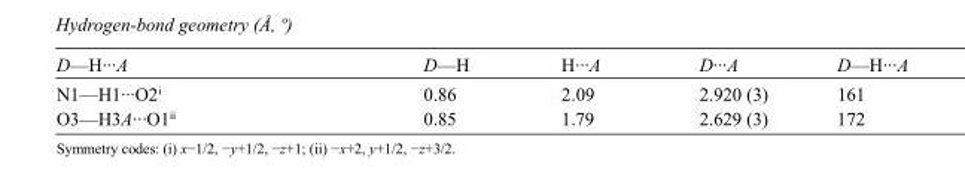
<table><tbody><tr><td>D—H···A</td><td>D—H</td><td>H···A</td><td>D···A</td><td>D—H···A</td></tr><tr><td>N1—H1···O2<sup>i</sup></td><td>0.86</td><td>2.09</td><td>2.920 (3)</td><td>161</td></tr><tr><td>O3—H3A···O1<sup>ii</sup></td><td>0.85</td><td>1.79</td><td>2.629 (3)</td><td>172</td></tr></tbody></table>